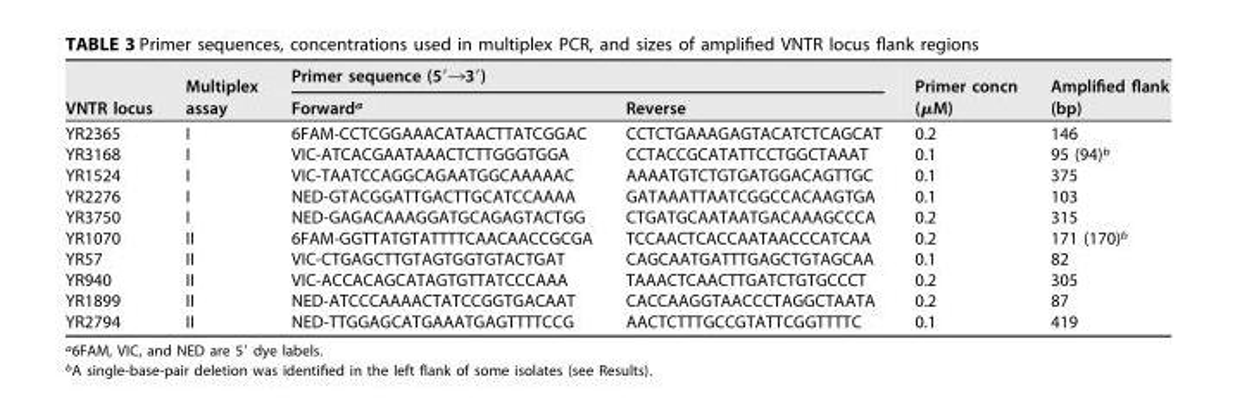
<table><thead><tr><td rowspan="2">VNTR locus</td><td rowspan="2">Multiplex assay</td><td colspan="2">Primer sequence (5=¡3=)</td><td rowspan="2">Primer concn (μM)</td><td rowspan="2">Amplified flank (bp)</td></tr><tr><td>Forward<sup>a</sup></td><td>Reverse</td></tr></thead><tbody><tr><td>YR2365</td><td>I</td><td>6FAM-CCTCGGAAACATAACTTATCGGAC</td><td>CCTCTGAAAGAGTACATCTCAGCAT</td><td>0.2</td><td>146</td></tr><tr><td>YR3168</td><td>I</td><td>VIC-ATCACGAATAAACTCTTGGGTGGA</td><td>CCTACCGCATATTCCTGGCTAAAT</td><td>0.1</td><td>95 (94)<sup>b</sup></td></tr><tr><td>YR1524</td><td>I</td><td>VIC-TAATCCAGGCAGAATGGCAAAAAC</td><td>AAAATGTCTGTGATGGACAGTTGC</td><td>0.1</td><td>375</td></tr><tr><td>YR2276</td><td>I</td><td>NED-GTACGGATTGACTTGCATCCAAAA</td><td>GATAAATTAATCGGCCACAAGTGA</td><td>0.1</td><td>103</td></tr><tr><td>YR3750</td><td>I</td><td>NED-GAGACAAAGGATGCAGAGTACTGG</td><td>CTGATGCAATAATGACAAAGCCCA</td><td>0.2</td><td>315</td></tr><tr><td>YR1070</td><td>II</td><td>6FAM-GGTTATGTATTTTCAACAACCGCGA</td><td>TCCAACTCACCAATAACCCATCAA</td><td>0.2</td><td>171 (170)<sup>b</sup></td></tr><tr><td>YR57</td><td>II</td><td>VIC-CTGAGCTTGTAGTGGTGTACTGAT</td><td>CAGCAATGATTTGAGCTGTAGCAA</td><td>0.1</td><td>82</td></tr><tr><td>YR940</td><td>II</td><td>VIC-ACCACAGCATAGTGTTATCCCAAA</td><td>TAAACTCAACTTGATCTGTGCCCT</td><td>0.2</td><td>305</td></tr><tr><td>YR1899</td><td>II</td><td>NED-ATCCCAAAACTATCCGGTGACAAT</td><td>CACCAAGGTAACCCTAGGCTAATA</td><td>0.2</td><td>87</td></tr><tr><td>YR2794</td><td>II</td><td>NED-TTGGAGCATGAAATGAGTTTTCCG</td><td>AACTCTTTGCCGTATTCGGTTTTC</td><td>0.1</td><td>419</td></tr></tbody></table>